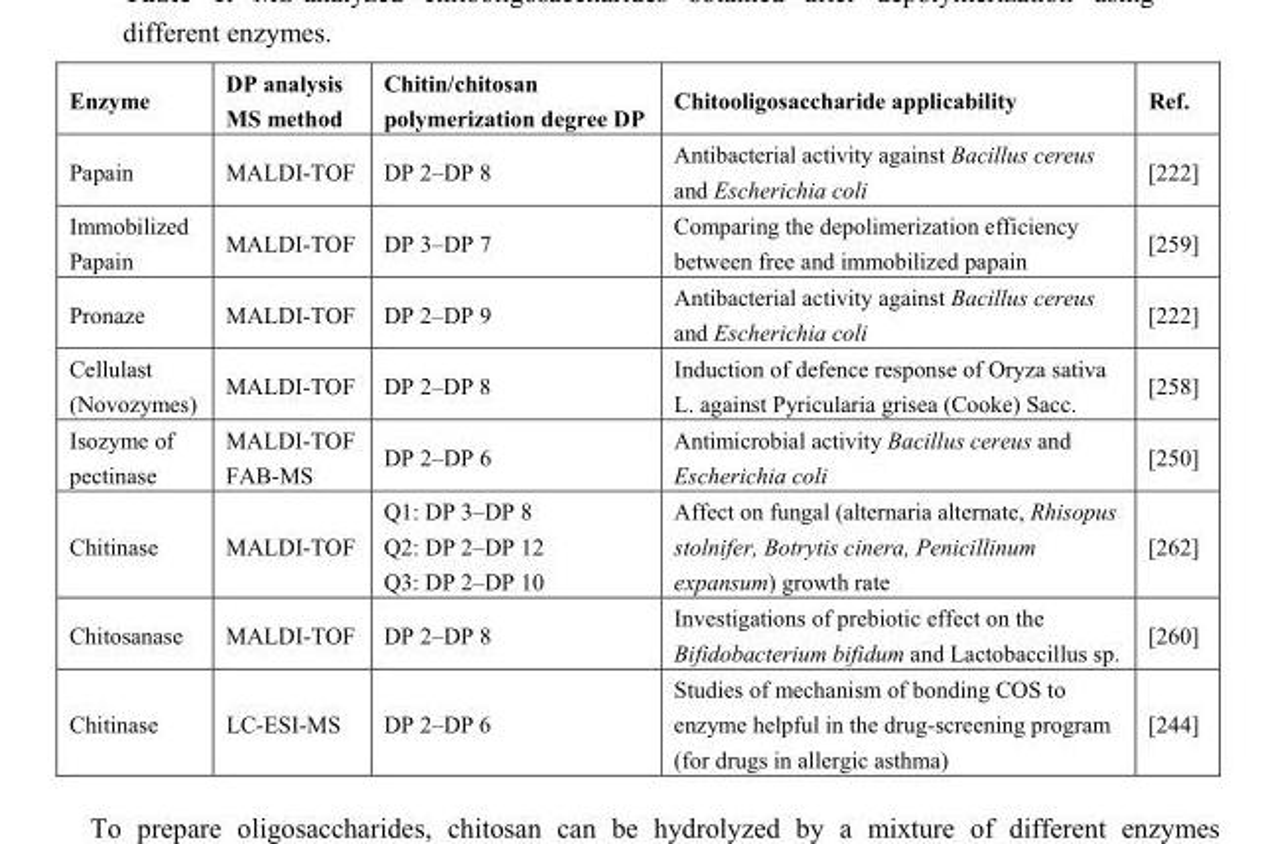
<table><thead><tr><td>Enzyme</td><td>DP analysis MS method</td><td>Chitin/chitosan polymerization degree DP</td><td>Chitooligosaccharide applicability</td><td>Ref.</td></tr></thead><tbody><tr><td>Papain</td><td>MALDI-TOF</td><td>DP 2–DP 8</td><td>Antibacterial activity against Bacillus cereus and Escherichia coli</td><td>[222]</td></tr><tr><td>Immobilized Papain</td><td>MALDI-TOF</td><td>DP 3–DP 7</td><td>Comparing the depolimerization efficiency between free and immobilized papain</td><td>[259]</td></tr><tr><td>Pronaze</td><td>MALDI-TOF</td><td>DP 2–DP 9</td><td>Antibacterial activity against Bacillus cereus and Escherichia coli</td><td>[222]</td></tr><tr><td>Cellulast (Novozymes)</td><td>MALDI-TOF</td><td>DP 2–DP 8</td><td>Induction of defence response of Oryza sativa L. against Pyricularia grisea (Cooke) Sacc.</td><td>[258]</td></tr><tr><td>Isozyme of pectinase</td><td>MALDI-TOF FAB-MS</td><td>DP 2–DP 6</td><td>Antimicrobial activity Bacillus cereus and Escherichia coli</td><td>[250]</td></tr><tr><td>Chitinase</td><td>MALDI-TOF</td><td>Q1: DP 3–DP 8 Q2: DP 2–DP 12 Q3: DP 2–DP 10</td><td>Affect on fungal (alternaria alternate, Rhisopus stolnifer, Botrytis cinera, Penicillinum expansum) growth rate</td><td>[262]</td></tr><tr><td>Chitosanase</td><td>MALDI-TOF</td><td>DP 2–DP 8</td><td>Investigations of prebiotic effect on the Bifidobacterium bifidum and Lactobaccillus sp.</td><td>[260]</td></tr><tr><td>Chitinase</td><td>LC-ESI-MS</td><td>DP 2–DP 6</td><td>Studies of mechanism of bonding COS to enzyme helpful in the drug-screening program (for drugs in allergic asthma)</td><td>[244]</td></tr></tbody></table>